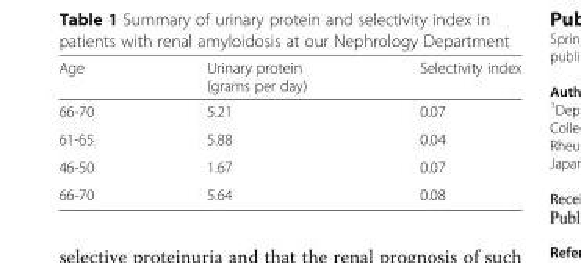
<table><thead><tr><td>Age</td><td>Urinary protein (grams per day)</td><td>Selectivity index</td></tr></thead><tbody><tr><td>66-70</td><td>5.21</td><td>0.07</td></tr><tr><td>61-65</td><td>5.88</td><td>0.04</td></tr><tr><td>46-50</td><td>1.67</td><td>0.07</td></tr><tr><td>66-70</td><td>5.64</td><td>0.08</td></tr></tbody></table>